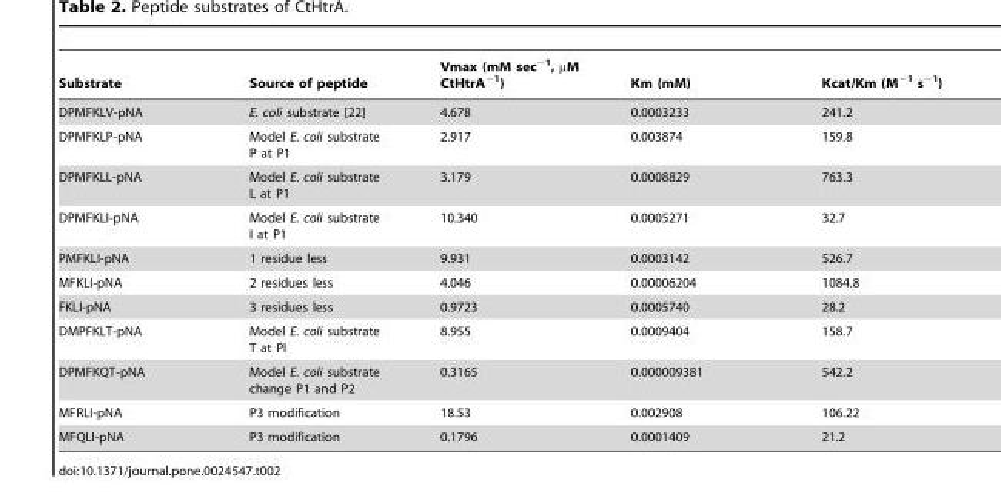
<table><thead><tr><td>Substrate</td><td>Source of peptide</td><td>Vmax (mM sec<sup>−1</sup>, µM CtHtrA<sup>−1</sup>)</td><td>Km (mM)</td><td>Kcat/Km (M<sup>−1</sup> s<sup>−1</sup>)</td></tr></thead><tbody><tr><td>DPMFKLV-pNA</td><td>E. coli substrate [22]</td><td>4.678</td><td>0.0003233</td><td>241.2</td></tr><tr><td>DPMFKLP-pNA</td><td>Model E. coli substrate P at P1</td><td>2.917</td><td>0.003874</td><td>159.8</td></tr><tr><td>DPMFKLL-pNA</td><td>Model E. coli substrate L at P1</td><td>3.179</td><td>0.0008829</td><td>763.3</td></tr><tr><td>DPMFKLI-pNA</td><td>Model E. coli substrate I at P1</td><td>10.340</td><td>0.0005271</td><td>32.7</td></tr><tr><td>PMFKLI-pNA</td><td>1 residue less</td><td>9.931</td><td>0.0003142</td><td>526.7</td></tr><tr><td>MFKLI-pNA</td><td>2 residues less</td><td>4.046</td><td>0.00006204</td><td>1084.8</td></tr><tr><td>FKLI-pNA</td><td>3 residues less</td><td>0.9723</td><td>0.0005740</td><td>28.2</td></tr><tr><td>DMPFKLT-pNA</td><td>Model E. coli substrate T at PI</td><td>8.955</td><td>0.0009404</td><td>158.7</td></tr><tr><td>DPMFKQT-pNA</td><td>Model E. coli substrate change P1 and P2</td><td>0.3165</td><td>0.000009381</td><td>542.2</td></tr><tr><td>MFRLI-pNA</td><td>P3 modification</td><td>18.53</td><td>0.002908</td><td>106.22</td></tr><tr><td>MFQLI-pNA</td><td>P3 modification</td><td>0.1796</td><td>0.0001409</td><td>21.2</td></tr></tbody></table>